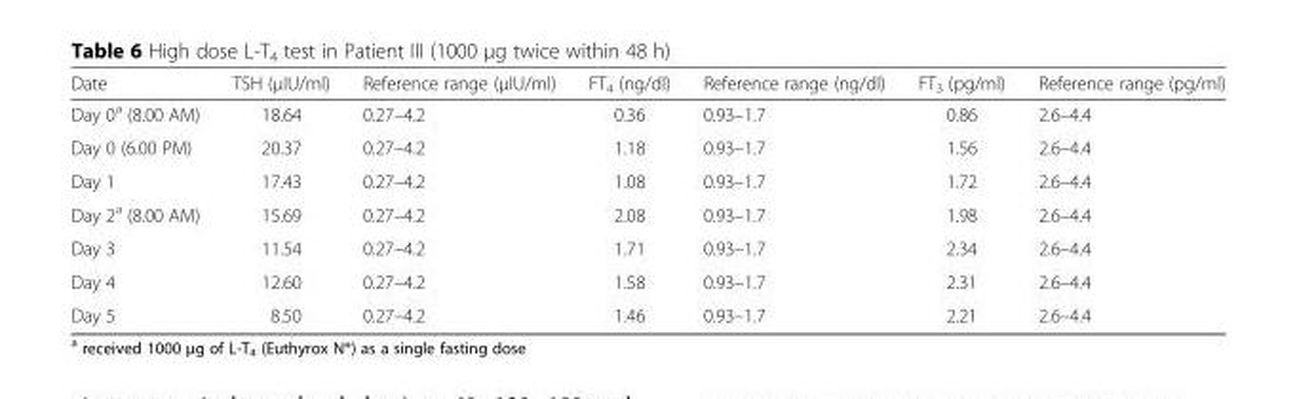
<table><thead><tr><td>Date</td><td>TSH (μIU/ml)</td><td>Reference range (μIU/ml)</td><td>FT<sub>4</sub> (ng/dl)</td><td>Reference range (ng/dl)</td><td>FT<sub>3</sub> (pg/ml)</td><td>Reference range (pg/ml)</td></tr></thead><tbody><tr><td>Day 0<sup>a</sup> (8.00 AM)</td><td>18.64</td><td>0.27–4.2</td><td>0.36</td><td>0.93–1.7</td><td>0.86</td><td>2.6–4.4</td></tr><tr><td>Day 0 (6.00 PM)</td><td>20.37</td><td>0.27–4.2</td><td>1.18</td><td>0.93–1.7</td><td>1.56</td><td>2.6–4.4</td></tr><tr><td>Day 1</td><td>17.43</td><td>0.27–4.2</td><td>1.08</td><td>0.93–1.7</td><td>1.72</td><td>2.6–4.4</td></tr><tr><td>Day 2<sup>a</sup> (8.00 AM)</td><td>15.69</td><td>0.27–4.2</td><td>2.08</td><td>0.93–1.7</td><td>1.98</td><td>2.6–4.4</td></tr><tr><td>Day 3</td><td>11.54</td><td>0.27–4.2</td><td>1.71</td><td>0.93–1.7</td><td>2.34</td><td>2.6–4.4</td></tr><tr><td>Day 4</td><td>12.60</td><td>0.27–4.2</td><td>1.58</td><td>0.93–1.7</td><td>2.31</td><td>2.6–4.4</td></tr><tr><td>Day 5</td><td>8.50</td><td>0.27–4.2</td><td>1.46</td><td>0.93–1.7</td><td>2.21</td><td>2.6–4.4</td></tr></tbody></table>